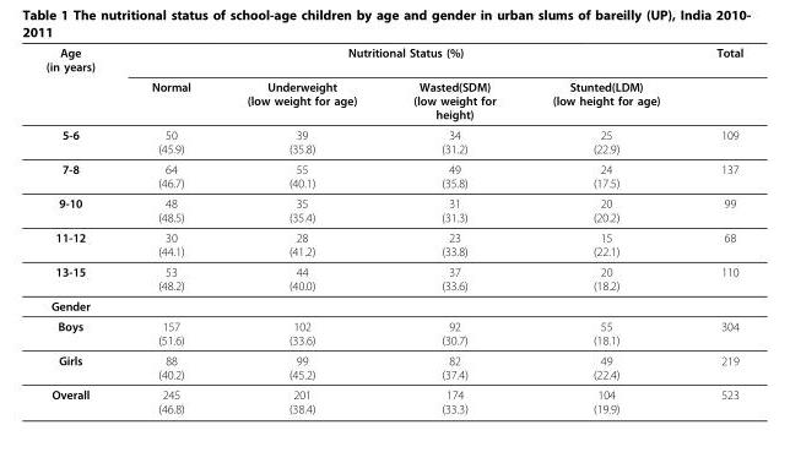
<table><thead><tr><td rowspan="2">Age (in years)</td><td colspan="4">Nutritional Status (%)</td><td rowspan="2">Total</td></tr><tr><td>Normal</td><td>Underweight (low weight for age)</td><td>Wasted(SDM) (low weight for height)</td><td>Stunted(LDM) (low height for age)</td></tr></thead><tbody><tr><td>5-6</td><td>50 (45.9)</td><td>39 (35.8)</td><td>34 (31.2)</td><td>25 (22.9)</td><td>109</td></tr><tr><td>7-8</td><td>64 (46.7)</td><td>55 (40.1)</td><td>49 (35.8)</td><td>24 (17.5)</td><td>137</td></tr><tr><td>9-10</td><td>48 (48.5)</td><td>35 (35.4)</td><td>31 (31.3)</td><td>20 (20.2)</td><td>99</td></tr><tr><td>11-12</td><td>30 (44.1)</td><td>28 (41.2)</td><td>23 (33.8)</td><td>15 (22.1)</td><td>68</td></tr><tr><td>13-15</td><td>53 (48.2)</td><td>44 (40.0)</td><td>37 (33.6)</td><td>20 (18.2)</td><td>110</td></tr><tr><td colspan="6">Gender</td></tr><tr><td>Boys</td><td>157 (51.6)</td><td>102 (33.6)</td><td>92 (30.7)</td><td>55 (18.1)</td><td>304</td></tr><tr><td>Girls</td><td>88 (40.2)</td><td>99 (45.2)</td><td>82 (37.4)</td><td>49 (22.4)</td><td>219</td></tr><tr><td>Overall</td><td>245 (46.8)</td><td>201 (38.4)</td><td>174 (33.3)</td><td>104 (19.9)</td><td>523</td></tr></tbody></table>